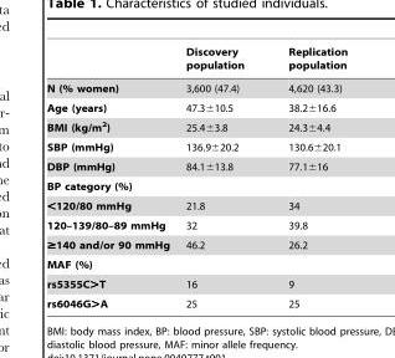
<table><thead><tr><td></td><td>Discovery population</td><td>Replication population</td></tr></thead><tbody><tr><td>N (% women)</td><td>3,600 (47.4)</td><td>4,620 (43.3)</td></tr><tr><td>Age (years)</td><td>47.3±10.5</td><td>38.2±16.6</td></tr><tr><td>BMI (kg/m<sup>2</sup>)</td><td>25.4±3.8</td><td>24.3±4.4</td></tr><tr><td>SBP (mmHg)</td><td>136.9±20.2</td><td>130.6±20.1</td></tr><tr><td>DBP (mmHg)</td><td>84.1±13.8</td><td>77.1±16</td></tr><tr><td colspan="3">BP category (%)</td></tr><tr><td>&lt;120/80 mmHg</td><td>21.8</td><td>34</td></tr><tr><td>120–139/80–89 mmHg</td><td>32</td><td>39.8</td></tr><tr><td>≥140 and/or 90 mmHg</td><td>46.2</td><td>26.2</td></tr><tr><td colspan="3">MAF (%)</td></tr><tr><td>rs5355C&gt;T</td><td>16</td><td>9</td></tr><tr><td>rs6046G&gt;A</td><td>25</td><td>25</td></tr></tbody></table>